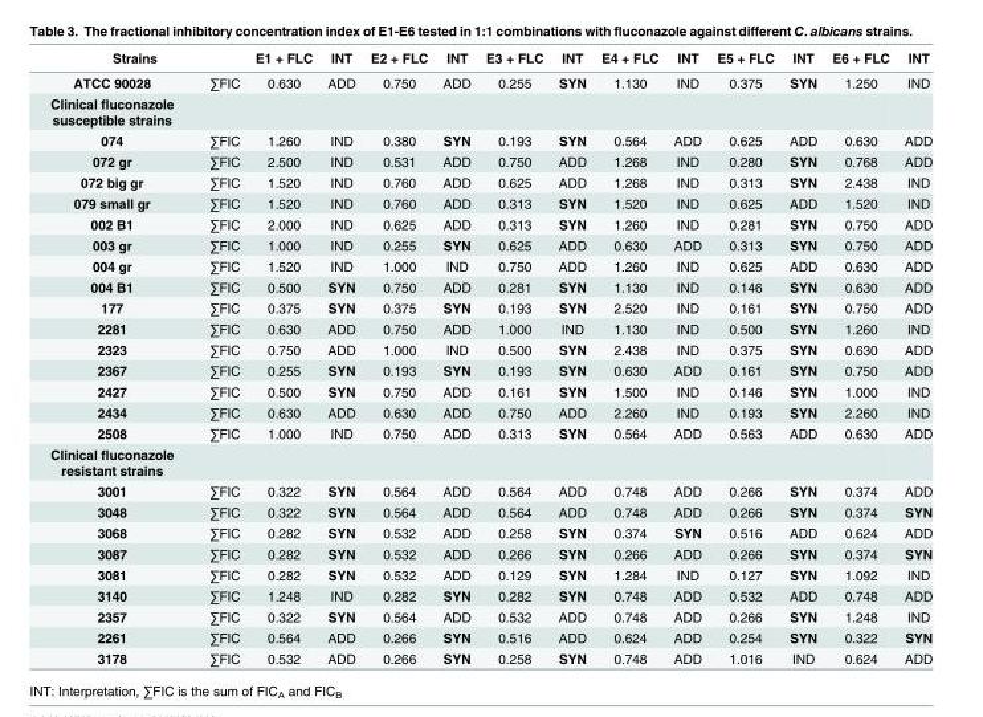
<table><thead><tr><td colspan="2">Strains</td><td rowspan="2">E1 + FLC 0.630</td><td rowspan="2">INT ADD</td><td rowspan="2">E2 + FLC 0.750</td><td rowspan="2">INT ADD</td><td rowspan="2">E3 + FLC 0.255</td><td rowspan="2">INT SYN</td><td rowspan="2">E4 + FLC 1.130</td><td rowspan="2">INT IND</td><td rowspan="2">E5 + FLC 0.375</td><td rowspan="2">INT SYN</td><td rowspan="2">E6 + FLC 1.250</td><td rowspan="2">INT IND</td></tr><tr><td>ATCC 90028</td><td>∑FIC</td></tr></thead><tbody><tr><td colspan="14">Clinical fluconazole susceptible strains</td></tr><tr><td>074</td><td>∑FIC</td><td>1.260</td><td>IND</td><td>0.380</td><td>SYN</td><td>0.193</td><td>SYN</td><td>0.564</td><td>ADD</td><td>0.625</td><td>ADD</td><td>0.630</td><td>ADD</td></tr><tr><td>072 gr</td><td>∑FIC</td><td>2.500</td><td>IND</td><td>0.531</td><td>ADD</td><td>0.750</td><td>ADD</td><td>1.268</td><td>IND</td><td>0.280</td><td>SYN</td><td>0.768</td><td>ADD</td></tr><tr><td>072 big gr</td><td>∑FIC</td><td>1.520</td><td>IND</td><td>0.760</td><td>ADD</td><td>0.625</td><td>ADD</td><td>1.268</td><td>IND</td><td>0.313</td><td>SYN</td><td>2.438</td><td>IND</td></tr><tr><td>079 small gr</td><td>∑FIC</td><td>1.520</td><td>IND</td><td>0.760</td><td>ADD</td><td>0.313</td><td>SYN</td><td>1.520</td><td>IND</td><td>0.625</td><td>ADD</td><td>1.520</td><td>IND</td></tr><tr><td>002 B1</td><td>∑FIC</td><td>2.000</td><td>IND</td><td>0.625</td><td>ADD</td><td>0.313</td><td>SYN</td><td>1.260</td><td>IND</td><td>0.281</td><td>SYN</td><td>0.750</td><td>ADD</td></tr><tr><td>003 gr</td><td>∑FIC</td><td>1.000</td><td>IND</td><td>0.255</td><td>SYN</td><td>0.625</td><td>ADD</td><td>0.630</td><td>ADD</td><td>0.313</td><td>SYN</td><td>0.750</td><td>ADD</td></tr><tr><td>004 gr</td><td>∑FIC</td><td>1.520</td><td>IND</td><td>1.000</td><td>IND</td><td>0.750</td><td>ADD</td><td>1.260</td><td>IND</td><td>0.625</td><td>ADD</td><td>0.630</td><td>ADD</td></tr><tr><td>004 B1</td><td>∑FIC</td><td>0.500</td><td>SYN</td><td>0.750</td><td>ADD</td><td>0.281</td><td>SYN</td><td>1.130</td><td>IND</td><td>0.146</td><td>SYN</td><td>0.630</td><td>ADD</td></tr><tr><td>177</td><td>∑FIC</td><td>0.375</td><td>SYN</td><td>0.375</td><td>SYN</td><td>0.193</td><td>SYN</td><td>2.520</td><td>IND</td><td>0.161</td><td>SYN</td><td>0.750</td><td>ADD</td></tr><tr><td>2281</td><td>∑FIC</td><td>0.630</td><td>ADD</td><td>0.750</td><td>ADD</td><td>1.000</td><td>IND</td><td>1.130</td><td>IND</td><td>0.500</td><td>SYN</td><td>1.260</td><td>IND</td></tr><tr><td>2323</td><td>∑FIC</td><td>0.750</td><td>ADD</td><td>1.000</td><td>IND</td><td>0.500</td><td>SYN</td><td>2.438</td><td>IND</td><td>0.375</td><td>SYN</td><td>0.630</td><td>ADD</td></tr><tr><td>2367</td><td>∑FIC</td><td>0.255</td><td>SYN</td><td>0.193</td><td>SYN</td><td>0.193</td><td>SYN</td><td>0.630</td><td>ADD</td><td>0.161</td><td>SYN</td><td>0.750</td><td>ADD</td></tr><tr><td>2427</td><td>∑FIC</td><td>0.500</td><td>SYN</td><td>0.750</td><td>ADD</td><td>0.161</td><td>SYN</td><td>1.500</td><td>IND</td><td>0.146</td><td>SYN</td><td>1.000</td><td>IND</td></tr><tr><td>2434</td><td>∑FIC</td><td>0.630</td><td>ADD</td><td>0.630</td><td>ADD</td><td>0.750</td><td>ADD</td><td>2.260</td><td>IND</td><td>0.193</td><td>SYN</td><td>2.260</td><td>IND</td></tr><tr><td>2508</td><td>∑FIC</td><td>1.000</td><td>IND</td><td>0.750</td><td>ADD</td><td>0.313</td><td>SYN</td><td>0.564</td><td>ADD</td><td>0.563</td><td>ADD</td><td>0.630</td><td>ADD</td></tr><tr><td colspan="14">Clinical fluconazole resistant strains</td></tr><tr><td>3001</td><td>∑FIC</td><td>0.322</td><td>SYN</td><td>0.564</td><td>ADD</td><td>0.564</td><td>ADD</td><td>0.748</td><td>ADD</td><td>0.266</td><td>SYN</td><td>0.374</td><td>ADD</td></tr><tr><td>3048</td><td>∑FIC</td><td>0.322</td><td>SYN</td><td>0.564</td><td>ADD</td><td>0.564</td><td>ADD</td><td>0.748</td><td>ADD</td><td>0.266</td><td>SYN</td><td>0.374</td><td>SYN</td></tr><tr><td>3068</td><td>∑FIC</td><td>0.282</td><td>SYN</td><td>0.532</td><td>ADD</td><td>0.258</td><td>SYN</td><td>0.374</td><td>SYN</td><td>0.516</td><td>ADD</td><td>0.624</td><td>ADD</td></tr><tr><td>3087</td><td>∑FIC</td><td>0.282</td><td>SYN</td><td>0.532</td><td>ADD</td><td>0.266</td><td>SYN</td><td>0.266</td><td>ADD</td><td>0.266</td><td>SYN</td><td>0.374</td><td>SYN</td></tr><tr><td>3081</td><td>∑FIC</td><td>0.282</td><td>SYN</td><td>0.532</td><td>ADD</td><td>0.129</td><td>SYN</td><td>1.284</td><td>IND</td><td>0.127</td><td>SYN</td><td>1.092</td><td>IND</td></tr><tr><td>3140</td><td>∑FIC</td><td>1.248</td><td>IND</td><td>0.282</td><td>SYN</td><td>0.282</td><td>SYN</td><td>0.748</td><td>ADD</td><td>0.532</td><td>ADD</td><td>0.748</td><td>ADD</td></tr><tr><td>2357</td><td>∑FIC</td><td>0.322</td><td>SYN</td><td>0.564</td><td>ADD</td><td>0.532</td><td>ADD</td><td>0.748</td><td>ADD</td><td>0.266</td><td>SYN</td><td>1.248</td><td>IND</td></tr><tr><td>2261</td><td>∑FIC</td><td>0.564</td><td>ADD</td><td>0.266</td><td>SYN</td><td>0.516</td><td>ADD</td><td>0.624</td><td>ADD</td><td>0.254</td><td>SYN</td><td>0.322</td><td>SYN</td></tr><tr><td>3178</td><td>∑FIC</td><td>0.532</td><td>ADD</td><td>0.266</td><td>SYN</td><td>0.258</td><td>SYN</td><td>0.748</td><td>ADD</td><td>1.016</td><td>IND</td><td>0.624</td><td>ADD</td></tr></tbody></table>